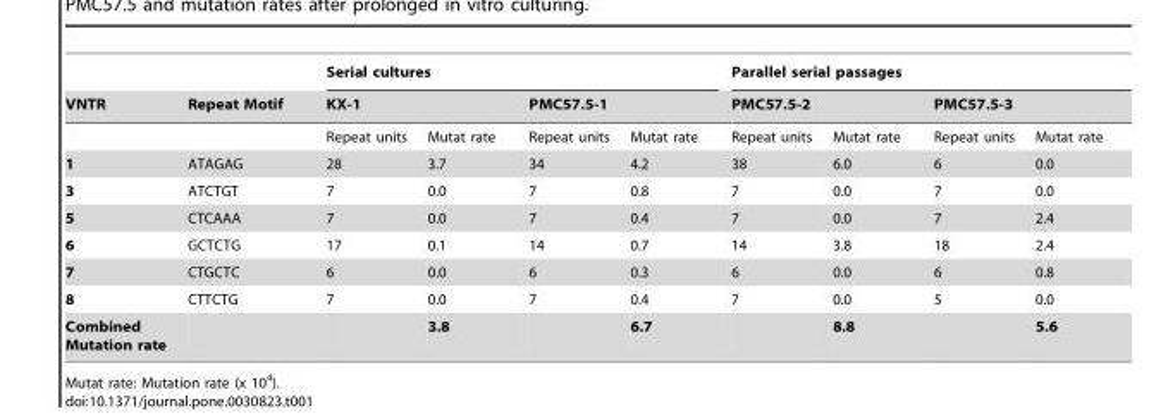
<table><thead><tr><td rowspan="3">VNTR</td><td rowspan="3">Repeat Motif</td><td colspan="4">Serial cultures</td><td colspan="4">Parallel serial passages</td></tr><tr><td colspan="2">KX-1</td><td colspan="2">PMC57.5-1</td><td colspan="2">PMC57.5-2</td><td colspan="2">PMC57.5-3</td></tr><tr><td>Repeat units</td><td>Mutat rate</td><td>Repeat units</td><td>Mutat rate</td><td>Repeat units</td><td>Mutat rate</td><td>Repeat units</td><td>Mutat rate</td></tr></thead><tbody><tr><td>1</td><td>ATAGAG</td><td>28</td><td>3.7</td><td>34</td><td>4.2</td><td>38</td><td>6.0</td><td>6</td><td>0.0</td></tr><tr><td>3</td><td>ATCTGT</td><td>7</td><td>0.0</td><td>7</td><td>0.8</td><td>7</td><td>0.0</td><td>7</td><td>0.0</td></tr><tr><td>5</td><td>CTCAAA</td><td>7</td><td>0.0</td><td>7</td><td>0.4</td><td>7</td><td>0.0</td><td>7</td><td>2.4</td></tr><tr><td>6</td><td>GCTCTG</td><td>17</td><td>0.1</td><td>14</td><td>0.7</td><td>14</td><td>3.8</td><td>18</td><td>2.4</td></tr><tr><td>7</td><td>CTGCTC</td><td>6</td><td>0.0</td><td>6</td><td>0.3</td><td>6</td><td>0.0</td><td>6</td><td>0.8</td></tr><tr><td>8</td><td>CTTCTG</td><td>7</td><td>0.0</td><td>7</td><td>0.4</td><td>7</td><td>0.0</td><td>5</td><td>0.0</td></tr><tr><td>Combined Mutation rate</td><td></td><td></td><td>3.8</td><td></td><td>6.7</td><td></td><td>8.8</td><td></td><td>5.6</td></tr></tbody></table>